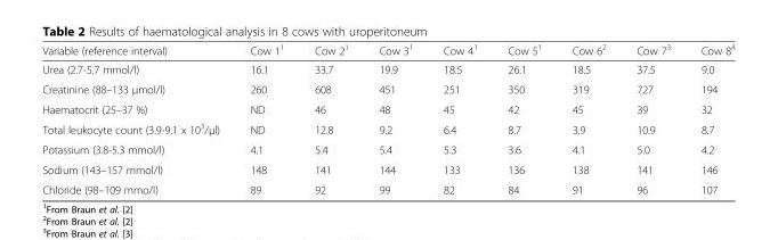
<table><thead><tr><td>Variable (reference interval)</td><td>Cow 1<sup>1</sup></td><td>Cow 2<sup>1</sup></td><td>Cow 3<sup>1</sup></td><td>Cow 4<sup>1</sup></td><td>Cow 5<sup>1</sup></td><td>Cow 6<sup>2</sup></td><td>Cow 7<sup>3</sup></td><td>Cow 8<sup>4</sup></td></tr></thead><tbody><tr><td>Urea (2.7-5.7 mmol/l)</td><td>16.1</td><td>33.7</td><td>19.9</td><td>18.5</td><td>26.1</td><td>18.5</td><td>37.5</td><td>9.0</td></tr><tr><td>Creatinine (88–133 μmol/l)</td><td>260</td><td>608</td><td>451</td><td>251</td><td>350</td><td>319</td><td>727</td><td>194</td></tr><tr><td>Haematocrit (25–37 %)</td><td>ND</td><td>46</td><td>48</td><td>45</td><td>42</td><td>45</td><td>39</td><td>32</td></tr><tr><td>Total leukocyte count (3.9-9.1 x 10<sup>3</sup>/μl)</td><td>ND</td><td>12.8</td><td>9.2</td><td>6.4</td><td>8.7</td><td>3.9</td><td>10.9</td><td>8.7</td></tr><tr><td>Potassium (3.8-5.3 mmol/l)</td><td>4.1</td><td>5.4</td><td>5.4</td><td>5.3</td><td>3.6</td><td>4.1</td><td>5.0</td><td>4.2</td></tr><tr><td>Sodium (143–157 mmol/l)</td><td>148</td><td>141</td><td>144</td><td>133</td><td>136</td><td>138</td><td>141</td><td>146</td></tr><tr><td>Chloride (98–109 mmo/l)</td><td>89</td><td>92</td><td>99</td><td>82</td><td>84</td><td>91</td><td>96</td><td>107</td></tr></tbody></table>